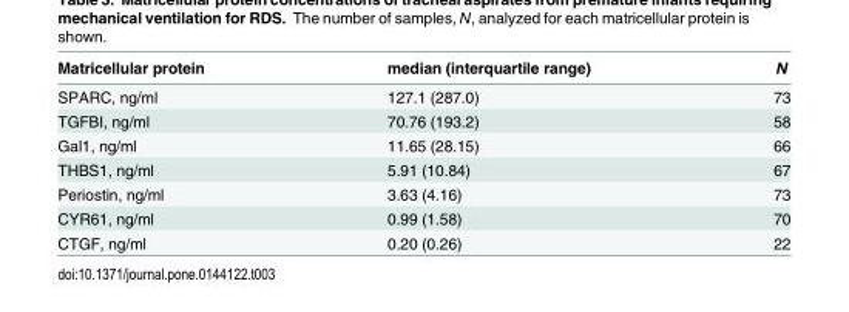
<table><thead><tr><td>Matricellular protein</td><td>median (interquartile range)</td><td>N</td></tr></thead><tbody><tr><td>SPARC, ng/ml</td><td>127.1 (287.0)</td><td>73</td></tr><tr><td>TGFBI, ng/ml</td><td>70.76 (193.2)</td><td>58</td></tr><tr><td>Gal1, ng/ml</td><td>11.65 (28.15)</td><td>66</td></tr><tr><td>THBS1, ng/ml</td><td>5.91 (10.84)</td><td>67</td></tr><tr><td>Periostin, ng/ml</td><td>3.63 (4.16)</td><td>73</td></tr><tr><td>CYR61, ng/ml</td><td>0.99 (1.58)</td><td>70</td></tr><tr><td>CTGF, ng/ml</td><td>0.20 (0.26)</td><td>22</td></tr></tbody></table>